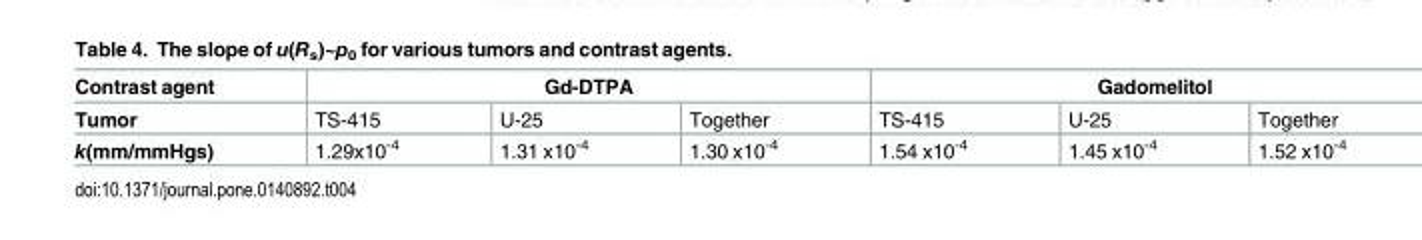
<table><thead><tr><td rowspan="2">Contrast agent Tumor</td><td colspan="3">Gd-DTPA</td><td colspan="3">Gadomelitol</td></tr><tr><td>TS-415</td><td>U-25</td><td>Together</td><td>TS-415</td><td>U-25</td><td>Together</td></tr></thead><tbody><tr><td>k(mm/mmHgs)</td><td>1.29x10<sup>-4</sup></td><td>1.31 x10<sup>-4</sup></td><td>1.30 x10<sup>-4</sup></td><td>1.54 x10<sup>-4</sup></td><td>1.45 x10<sup>-4</sup></td><td>1.52 x10<sup>-4</sup></td></tr></tbody></table>